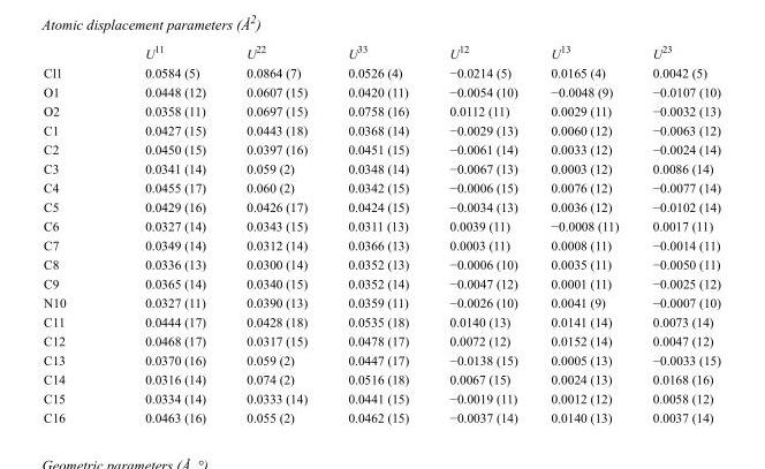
<table><thead><tr><td></td><td>U<sup>11</sup></td><td>U<sup>22</sup></td><td>U<sup>33</sup></td><td>U<sup>12</sup></td><td>U<sup>13</sup></td><td>U<sup>23</sup></td></tr></thead><tbody><tr><td>Cl1</td><td>0.0584 (5)</td><td>0.0864 (7)</td><td>0.0526 (4)</td><td>−0.0214 (5)</td><td>0.0165 (4)</td><td>0.0042 (5)</td></tr><tr><td>O1</td><td>0.0448 (12)</td><td>0.0607 (15)</td><td>0.0420 (11)</td><td>−0.0054 (10)</td><td>−0.0048 (9)</td><td>−0.0107 (10)</td></tr><tr><td>O2</td><td>0.0358 (11)</td><td>0.0697 (15)</td><td>0.0758 (16)</td><td>0.0112 (11)</td><td>0.0029 (11)</td><td>−0.0032 (13)</td></tr><tr><td>C1</td><td>0.0427 (15)</td><td>0.0443 (18)</td><td>0.0368 (14)</td><td>−0.0029 (13)</td><td>0.0060 (12)</td><td>−0.0063 (12)</td></tr><tr><td>C2</td><td>0.0450 (15)</td><td>0.0397 (16)</td><td>0.0451 (15)</td><td>−0.0061 (14)</td><td>0.0033 (12)</td><td>−0.0024 (14)</td></tr><tr><td>C3</td><td>0.0341 (14)</td><td>0.059 (2)</td><td>0.0348 (14)</td><td>−0.0067 (13)</td><td>0.0003 (12)</td><td>0.0086 (14)</td></tr><tr><td>C4</td><td>0.0455 (17)</td><td>0.060 (2)</td><td>0.0342 (15)</td><td>−0.0006 (15)</td><td>0.0076 (12)</td><td>−0.0077 (14)</td></tr><tr><td>C5</td><td>0.0429 (16)</td><td>0.0426 (17)</td><td>0.0424 (15)</td><td>−0.0034 (13)</td><td>0.0036 (12)</td><td>−0.0102 (14)</td></tr><tr><td>C6</td><td>0.0327 (14)</td><td>0.0343 (15)</td><td>0.0311 (13)</td><td>0.0039 (11)</td><td>−0.0008 (11)</td><td>0.0017 (11)</td></tr><tr><td>C7</td><td>0.0349 (14)</td><td>0.0312 (14)</td><td>0.0366 (13)</td><td>0.0003 (11)</td><td>0.0008 (11)</td><td>−0.0014 (11)</td></tr><tr><td>C8</td><td>0.0336 (13)</td><td>0.0300 (14)</td><td>0.0352 (13)</td><td>−0.0006 (10)</td><td>0.0035 (11)</td><td>−0.0050 (11)</td></tr><tr><td>C9</td><td>0.0365 (14)</td><td>0.0340 (15)</td><td>0.0352 (14)</td><td>−0.0047 (12)</td><td>0.0001 (11)</td><td>−0.0025 (12)</td></tr><tr><td>N10</td><td>0.0327 (11)</td><td>0.0390 (13)</td><td>0.0359 (11)</td><td>−0.0026 (10)</td><td>0.0041 (9)</td><td>−0.0007 (10)</td></tr><tr><td>C11</td><td>0.0444 (17)</td><td>0.0428 (18)</td><td>0.0535 (18)</td><td>0.0140 (13)</td><td>0.0141 (14)</td><td>0.0073 (14)</td></tr><tr><td>C12</td><td>0.0468 (17)</td><td>0.0317 (15)</td><td>0.0478 (17)</td><td>0.0072 (12)</td><td>0.0152 (14)</td><td>0.0047 (12)</td></tr><tr><td>C13</td><td>0.0370 (16)</td><td>0.059 (2)</td><td>0.0447 (17)</td><td>−0.0138 (15)</td><td>0.0005 (13)</td><td>−0.0033 (15)</td></tr><tr><td>C14</td><td>0.0316 (14)</td><td>0.074 (2)</td><td>0.0516 (18)</td><td>0.0067 (15)</td><td>0.0024 (13)</td><td>0.0168 (16)</td></tr><tr><td>C15</td><td>0.0334 (14)</td><td>0.0333 (14)</td><td>0.0441 (15)</td><td>−0.0019 (11)</td><td>0.0012 (12)</td><td>0.0058 (12)</td></tr><tr><td>C16</td><td>0.0463 (16)</td><td>0.055 (2)</td><td>0.0462 (15)</td><td>−0.0037 (14)</td><td>0.0140 (13)</td><td>0.0037 (14)</td></tr></tbody></table>